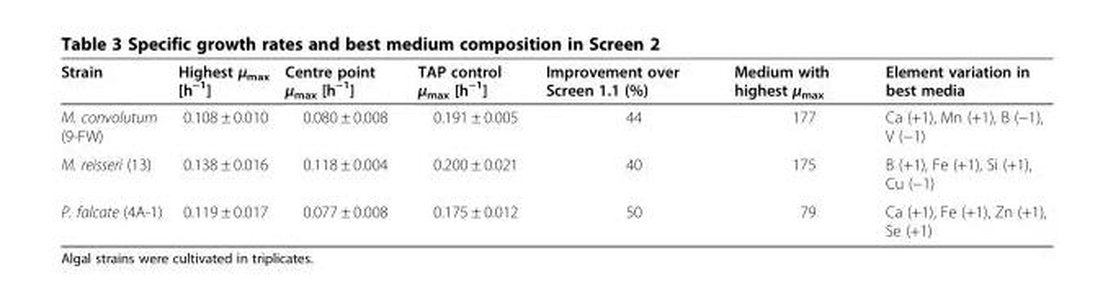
<table><thead><tr><td>Strain</td><td>Highest μ<sub>max</sub> [h<sup>−1</sup>]</td><td>Centre point μ<sub>max</sub> [h<sup>−1</sup>]</td><td>TAP control μ<sub>max</sub> [h<sup>−1</sup>]</td><td>Improvement over Screen 1.1 (%)</td><td>Medium with highest μ<sub>max</sub></td><td>Element variation in best media</td></tr></thead><tbody><tr><td>M. convolutum (9-FW)</td><td>0.108 ± 0.010</td><td>0.080 ± 0.008</td><td>0.191 ± 0.005</td><td>44</td><td>177</td><td>Ca (+1), Mn (+1), B (−1), V (−1)</td></tr><tr><td>M. reisseri (13)</td><td>0.138 ± 0.016</td><td>0.118 ± 0.004</td><td>0.200 ± 0.021</td><td>40</td><td>175</td><td>B (+1), Fe (+1), Si (+1), Cu (−1)</td></tr><tr><td>P. falcate (4A-1)</td><td>0.119 ± 0.017</td><td>0.077 ± 0.008</td><td>0.175 ± 0.012</td><td>50</td><td>79</td><td>Ca (+1), Fe (+1), Zn (+1), Se (+1)</td></tr></tbody></table>